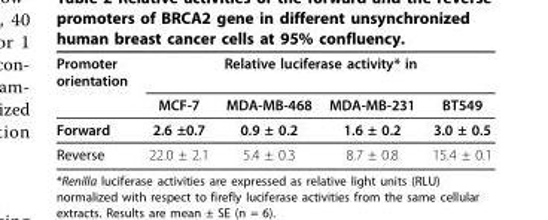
<table><thead><tr><td rowspan="2">Promoter orientation</td><td colspan="4">Relative luciferase activity* in</td></tr><tr><td>MCF-7</td><td>MDA-MB-468</td><td>MDA-MB-231</td><td>BT549</td></tr></thead><tbody><tr><td>Forward</td><td>2.6 ±0.7</td><td>0.9 ± 0.2</td><td>1.6 ± 0.2</td><td>3.0 ± 0.5</td></tr><tr><td>Reverse</td><td>22.0 ± 2.1</td><td>5.4 ± 0.3</td><td>8.7 ± 0.8</td><td>15.4 ± 0.1</td></tr></tbody></table>